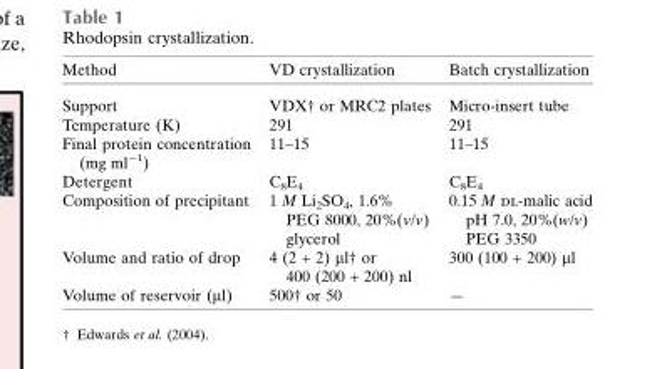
<table><thead><tr><td>Method</td><td>VD crystallization</td><td>Batch crystallization</td></tr></thead><tbody><tr><td>Support</td><td>VDX† or MRC2 plates</td><td>Micro-insert tube</td></tr><tr><td>Temperature (K)</td><td>291</td><td>291</td></tr><tr><td>Final protein concentration (mg ml�1)</td><td>11–15</td><td>11–15</td></tr><tr><td>Detergent</td><td>C<sub>8</sub>E<sub>4</sub></td><td>C<sub>8</sub>E<sub>4</sub></td></tr><tr><td>Composition of precipitant</td><td>1 M Li<sub>2</sub>SO<sub>4</sub>, 1.6% PEG 8000, 20%(v/v) glycerol</td><td>0.15 M dl-malic acid pH 7.0, 20%(w/v) PEG 3350</td></tr><tr><td>Volume and ratio of drop</td><td>4 (2 + 2) ml† or 400 (200 + 200) nl</td><td>300 (100 + 200) ml</td></tr><tr><td>Volume of reservoir (ml)</td><td>500† or 50</td><td>—</td></tr></tbody></table>